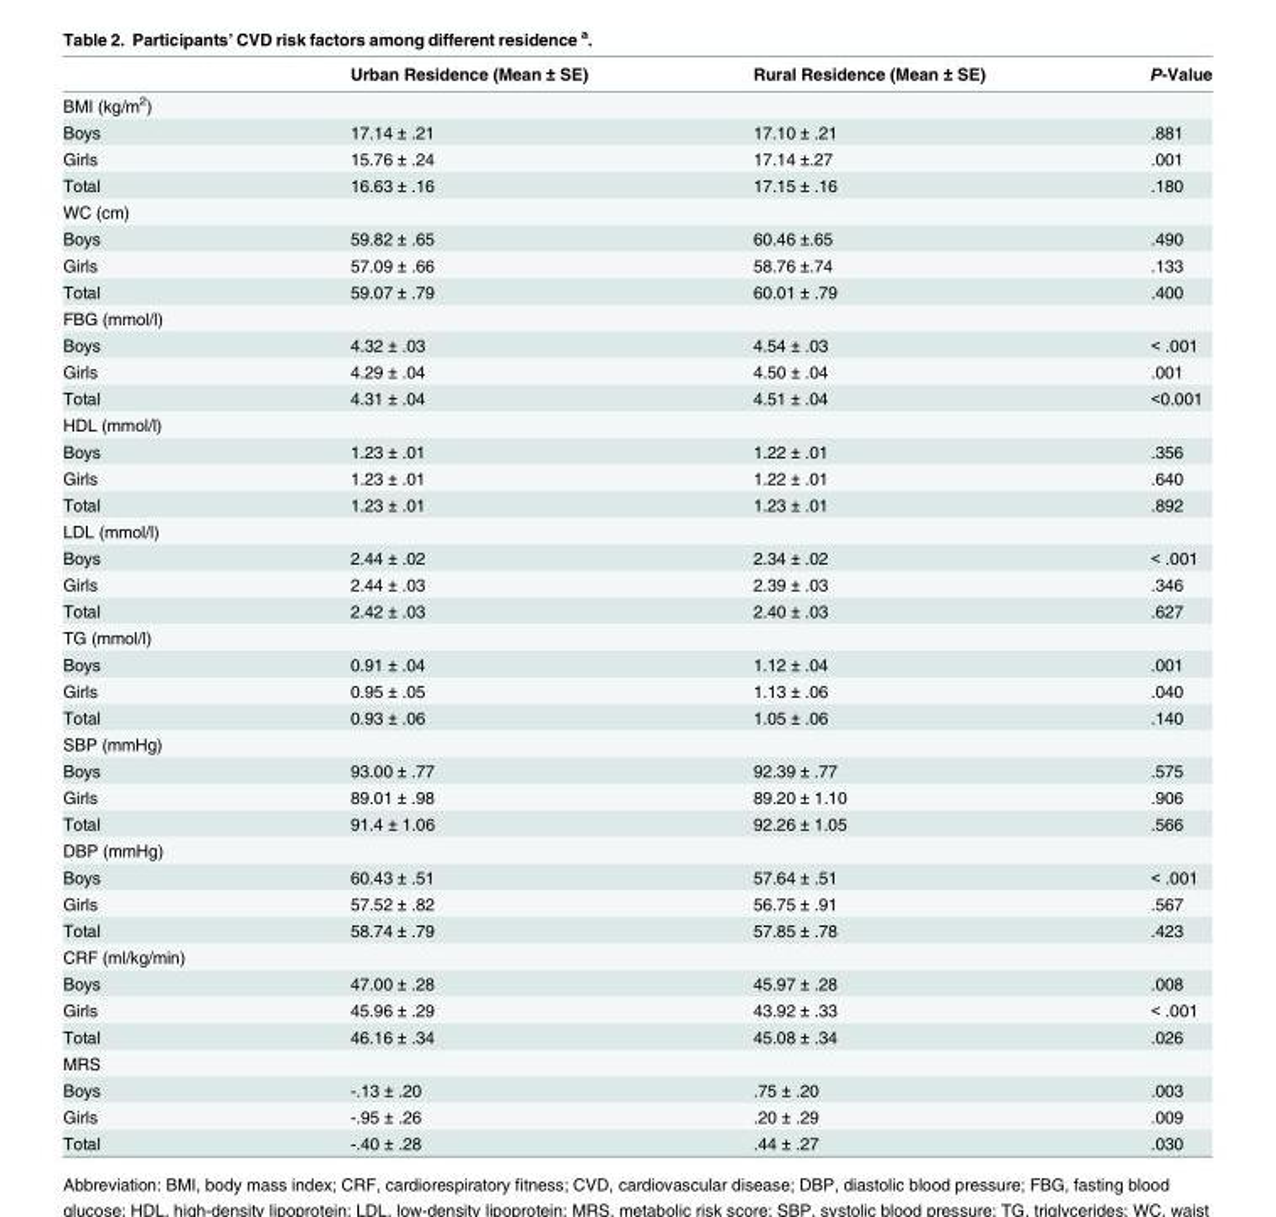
<table><thead><tr><td></td><td>Urban Residence (Mean ± SE)</td><td>Rural Residence (Mean ± SE)</td><td>P-Value</td></tr></thead><tbody><tr><td colspan="4">BMI (kg/m<sup>2</sup>)</td></tr><tr><td>Boys</td><td>17.14 ± .21</td><td>17.10 ± .21</td><td>.881</td></tr><tr><td>Girls</td><td>15.76 ± .24</td><td>17.14 ±.27</td><td>.001</td></tr><tr><td>Total</td><td>16.63 ± .16</td><td>17.15 ± .16</td><td>.180</td></tr><tr><td colspan="4">WC (cm)</td></tr><tr><td>Boys</td><td>59.82 ± .65</td><td>60.46 ±.65</td><td>.490</td></tr><tr><td>Girls</td><td>57.09 ± .66</td><td>58.76 ±.74</td><td>.133</td></tr><tr><td>Total</td><td>59.07 ± .79</td><td>60.01 ± .79</td><td>.400</td></tr><tr><td colspan="4">FBG (mmol/l)</td></tr><tr><td>Boys</td><td>4.32 ± .03</td><td>4.54 ± .03</td><td>&lt; .001</td></tr><tr><td>Girls</td><td>4.29 ± .04</td><td>4.50 ± .04</td><td>.001</td></tr><tr><td>Total</td><td>4.31 ± .04</td><td>4.51 ± .04</td><td>&lt;0.001</td></tr><tr><td colspan="4">HDL (mmol/l)</td></tr><tr><td>Boys</td><td>1.23 ± .01</td><td>1.22 ± .01</td><td>.356</td></tr><tr><td>Girls</td><td>1.23 ± .01</td><td>1.22 ± .01</td><td>.640</td></tr><tr><td>Total</td><td>1.23 ± .01</td><td>1.23 ± .01</td><td>.892</td></tr><tr><td colspan="4">LDL (mmol/l)</td></tr><tr><td>Boys</td><td>2.44 ± .02</td><td>2.34 ± .02</td><td>&lt; .001</td></tr><tr><td>Girls</td><td>2.44 ± .03</td><td>2.39 ± .03</td><td>.346</td></tr><tr><td>Total</td><td>2.42 ± .03</td><td>2.40 ± .03</td><td>.627</td></tr><tr><td colspan="4">TG (mmol/l)</td></tr><tr><td>Boys</td><td>0.91 ± .04</td><td>1.12 ± .04</td><td>.001</td></tr><tr><td>Girls</td><td>0.95 ± .05</td><td>1.13 ± .06</td><td>.040</td></tr><tr><td>Total</td><td>0.93 ± .06</td><td>1.05 ± .06</td><td>.140</td></tr><tr><td colspan="4">SBP (mmHg)</td></tr><tr><td>Boys</td><td>93.00 ± .77</td><td>92.39 ± .77</td><td>.575</td></tr><tr><td>Girls</td><td>89.01 ± .98</td><td>89.20 ± 1.10</td><td>.906</td></tr><tr><td>Total</td><td>91.4 ± 1.06</td><td>92.26 ± 1.05</td><td>.566</td></tr><tr><td colspan="4">DBP (mmHg)</td></tr><tr><td>Boys</td><td>60.43 ± .51</td><td>57.64 ± .51</td><td>&lt; .001</td></tr><tr><td>Girls</td><td>57.52 ± .82</td><td>56.75 ± .91</td><td>.567</td></tr><tr><td>Total</td><td>58.74 ± .79</td><td>57.85 ± .78</td><td>.423</td></tr><tr><td colspan="4">CRF (ml/kg/min)</td></tr><tr><td>Boys</td><td>47.00 ± .28</td><td>45.97 ± .28</td><td>.008</td></tr><tr><td>Girls</td><td>45.96 ± .29</td><td>43.92 ± .33</td><td>&lt; .001</td></tr><tr><td>Total</td><td>46.16 ± .34</td><td>45.08 ± .34</td><td>.026</td></tr><tr><td colspan="4">MRS</td></tr><tr><td>Boys</td><td>-.13 ± .20</td><td>.75 ± .20</td><td>.003</td></tr><tr><td>Girls</td><td>-.95 ± .26</td><td>.20 ± .29</td><td>.009</td></tr><tr><td>Total</td><td>-.40 ± .28</td><td>.44 ± .27</td><td>.030</td></tr></tbody></table>